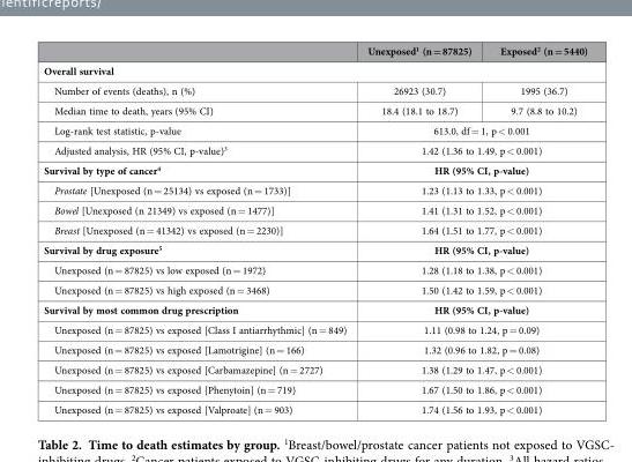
<table><thead><tr><td></td><td>Unexposed<sup>1</sup> (n = 87825)</td><td>Exposed<sup>2</sup> (n = 5440)</td></tr></thead><tbody><tr><td colspan="3">Overall survival</td></tr><tr><td>Number of events (deaths), n (%)</td><td>26923 (30.7)</td><td>1995 (36.7)</td></tr><tr><td>Median time to death, years (95% CI)</td><td>18.4 (18.1 to 18.7)</td><td>9.7 (8.8 to 10.2)</td></tr><tr><td>Log-rank test statistic, p-value</td><td colspan="2">613.0, df = 1, p &lt; 0.001</td></tr><tr><td>Adjusted analysis, HR (95% CI, p-value)<sup>3</sup></td><td colspan="2">1.42 (1.36 to 1.49, p &lt; 0.001)</td></tr><tr><td>Survival by type of cancer<sup>4</sup></td><td colspan="2">HR (95% CI, p-value)</td></tr><tr><td>Prostate [Unexposed (n = 25134) vs exposed (n = 1733)]</td><td colspan="2">1.23 (1.13 to 1.33, p &lt; 0.001)</td></tr><tr><td>Bowel [Unexposed (n 21349) vs exposed (n = 1477)]</td><td colspan="2">1.41 (1.31 to 1.52, p &lt; 0.001)</td></tr><tr><td>Breast [Unexposed (n = 41342) vs exposed (n = 2230)]</td><td colspan="2">1.64 (1.51 to 1.77, p &lt; 0.001)</td></tr><tr><td>Survival by drug exposure<sup>5</sup></td><td colspan="2">HR (95% CI, p-value)</td></tr><tr><td>Unexposed (n = 87825) vs low exposed (n = 1972)</td><td colspan="2">1.28 (1.18 to 1.38, p &lt; 0.001)</td></tr><tr><td>Unexposed (n = 87825) vs high exposed (n = 3468)</td><td colspan="2">1.50 (1.42 to 1.59, p &lt; 0.001)</td></tr><tr><td>Survival by most common drug prescription</td><td colspan="2">HR (95% CI, p-value)</td></tr><tr><td>Unexposed (n = 87825) vs exposed [Class I antiarrhythmic] (n = 849)</td><td colspan="2">1.11 (0.98 to 1.24, p = 0.09)</td></tr><tr><td>Unexposed (n = 87825) vs exposed [Lamotrigine] (n = 166)</td><td colspan="2">1.32 (0.96 to 1.82, p = 0.08)</td></tr><tr><td>Unexposed (n = 87825) vs exposed [Carbamazepine] (n = 2727)</td><td colspan="2">1.38 (1.29 to 1.47, p &lt; 0.001)</td></tr><tr><td>Unexposed (n = 87825) vs exposed [Phenytoin] (n = 719)</td><td colspan="2">1.67 (1.50 to 1.86, p &lt; 0.001)</td></tr><tr><td>Unexposed (n = 87825) vs exposed [Valproate] (n = 903)</td><td colspan="2">1.74 (1.56 to 1.93, p &lt; 0.001)</td></tr></tbody></table>